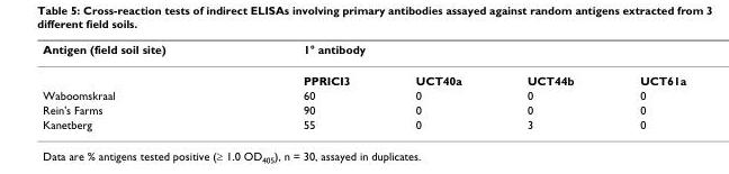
<table><thead><tr><td rowspan="2">Antigen (field soil site)</td><td colspan="4">1° antibody</td></tr><tr><td>PPRICI3</td><td>UCT40a</td><td>UCT44b</td><td>UCT61a</td></tr></thead><tbody><tr><td>Waboomskraal</td><td>60</td><td>0</td><td>0</td><td>0</td></tr><tr><td>Rein&#x27;s Farms</td><td>90</td><td>0</td><td>0</td><td>0</td></tr><tr><td>Kanetberg</td><td>55</td><td>0</td><td>3</td><td>0</td></tr></tbody></table>